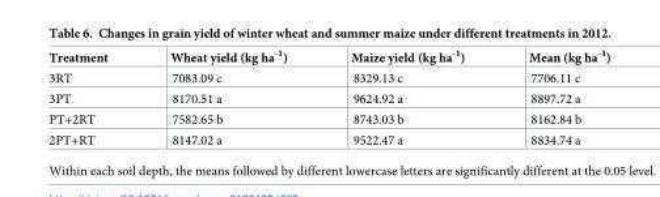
<table><thead><tr><td>Treatment</td><td>Wheat yield (kg ha<sup>-1</sup>)</td><td>Maize yield (kg ha<sup>-1</sup>)</td><td>Mean (kg ha<sup>-1</sup>)</td></tr></thead><tbody><tr><td>3RT</td><td>7083.09 c</td><td>8329.13 c</td><td>7706.11 c</td></tr><tr><td>3PT</td><td>8170.51 a</td><td>9624.92 a</td><td>8897.72 a</td></tr><tr><td>PT+2RT</td><td>7582.65 b</td><td>8743.03 b</td><td>8162.84 b</td></tr><tr><td>2PT+RT</td><td>8147.02 a</td><td>9522.47 a</td><td>8834.74 a</td></tr></tbody></table>